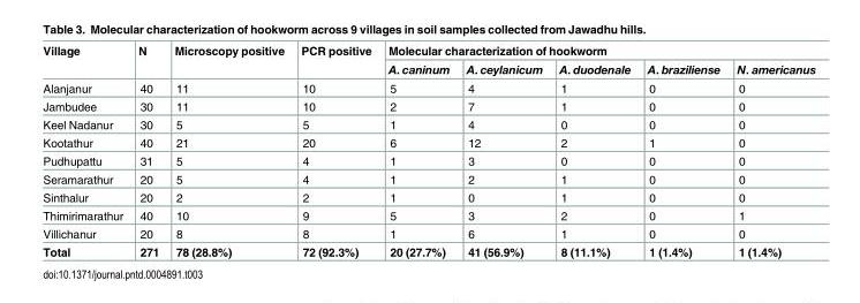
<table><thead><tr><td rowspan="2">Village</td><td rowspan="2">N</td><td rowspan="2">Microscopy positive</td><td rowspan="2">PCR positive</td><td colspan="5">Molecular characterization of hookworm</td></tr><tr><td>A. caninum</td><td>A. ceylanicum</td><td>A. duodenale</td><td>A. braziliense</td><td>N. americanus</td></tr></thead><tbody><tr><td>Alanjanur</td><td>40</td><td>11</td><td>10</td><td>5</td><td>4</td><td>1</td><td>0</td><td>0</td></tr><tr><td>Jambudee</td><td>30</td><td>11</td><td>10</td><td>2</td><td>7</td><td>1</td><td>0</td><td>0</td></tr><tr><td>Keel Nadanur</td><td>30</td><td>5</td><td>5</td><td>1</td><td>4</td><td>0</td><td>0</td><td>0</td></tr><tr><td>Kootathur</td><td>40</td><td>21</td><td>20</td><td>6</td><td>12</td><td>2</td><td>1</td><td>0</td></tr><tr><td>Pudhupattu</td><td>31</td><td>5</td><td>4</td><td>1</td><td>3</td><td>0</td><td>0</td><td>0</td></tr><tr><td>Seramarathur</td><td>20</td><td>5</td><td>4</td><td>1</td><td>2</td><td>1</td><td>0</td><td>0</td></tr><tr><td>Sinthalur</td><td>20</td><td>2</td><td>2</td><td>1</td><td>0</td><td>1</td><td>0</td><td>0</td></tr><tr><td>Thimirimarathur</td><td>40</td><td>10</td><td>9</td><td>5</td><td>3</td><td>2</td><td>0</td><td>1</td></tr><tr><td>Villichanur</td><td>20</td><td>8</td><td>8</td><td>1</td><td>6</td><td>1</td><td>0</td><td>0</td></tr><tr><td>Total</td><td>271</td><td>78 (28.8%)</td><td>72 (92.3%)</td><td>20 (27.7%)</td><td>41 (56.9%)</td><td>8 (11.1%)</td><td>1 (1.4%)</td><td>1 (1.4%)</td></tr></tbody></table>